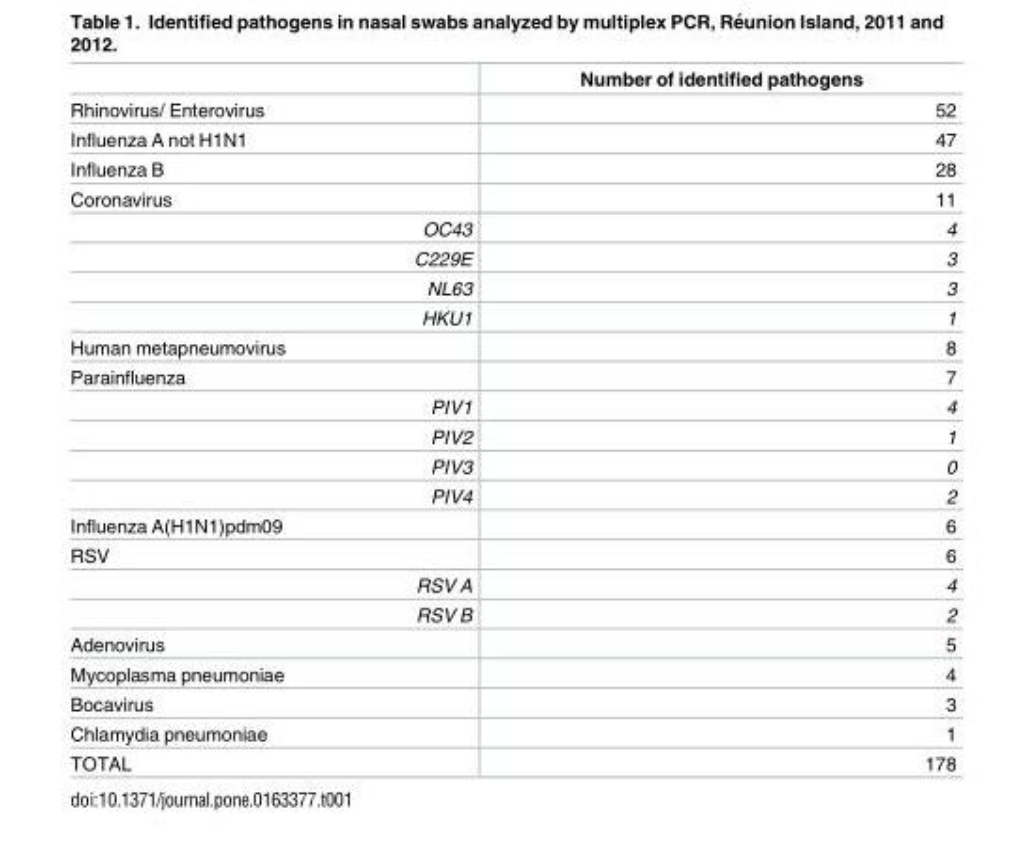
<table><thead><tr><td></td><td>Number of identified pathogens</td></tr></thead><tbody><tr><td>Rhinovirus/ Enterovirus</td><td>52</td></tr><tr><td>Influenza A not H1N1</td><td>47</td></tr><tr><td>Influenza B</td><td>28</td></tr><tr><td>Coronavirus</td><td>11</td></tr><tr><td>OC43</td><td>4</td></tr><tr><td>C229E</td><td>3</td></tr><tr><td>NL63</td><td>3</td></tr><tr><td>HKU1</td><td>1</td></tr><tr><td>Human metapneumovirus</td><td>8</td></tr><tr><td>Parainfluenza</td><td>7</td></tr><tr><td>PIV1</td><td>4</td></tr><tr><td>PIV2</td><td>1</td></tr><tr><td>PIV3</td><td>0</td></tr><tr><td>PIV4</td><td>2</td></tr><tr><td>Influenza A(H1N1)pdm09</td><td>6</td></tr><tr><td>RSV</td><td>6</td></tr><tr><td>RSV A</td><td>4</td></tr><tr><td>RSV B</td><td>2</td></tr><tr><td>Adenovirus</td><td>5</td></tr><tr><td>Mycoplasma pneumoniae</td><td>4</td></tr><tr><td>Bocavirus</td><td>3</td></tr><tr><td>Chlamydia pneumoniae</td><td>1</td></tr><tr><td>TOTAL</td><td>178</td></tr></tbody></table>